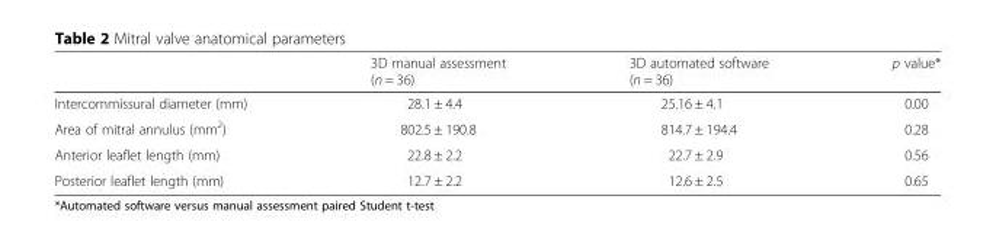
<table><thead><tr><td></td><td>3D manual assessment (n = 36)</td><td>3D automated software (n = 36)</td><td>p value*</td></tr></thead><tbody><tr><td>Intercommissural diameter (mm)</td><td>28.1 ± 4.4</td><td>25.16 ± 4.1</td><td>0.00</td></tr><tr><td>Area of mitral annulus (mm<sup>2</sup>)</td><td>802.5 ± 190.8</td><td>814.7 ± 194.4</td><td>0.28</td></tr><tr><td>Anterior leaflet length (mm)</td><td>22.8 ± 2.2</td><td>22.7 ± 2.9</td><td>0.56</td></tr><tr><td>Posterior leaflet length (mm)</td><td>12.7 ± 2.2</td><td>12.6 ± 2.5</td><td>0.65</td></tr></tbody></table>